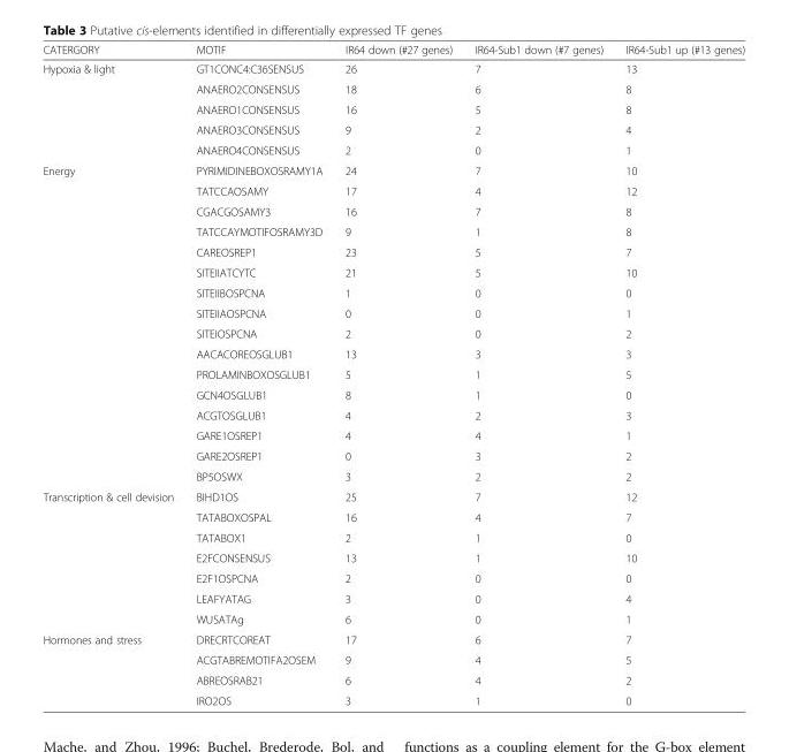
<table><thead><tr><td>CATERGORY</td><td>MOTIF</td><td>IR64 down (#27 genes)</td><td>IR64-Sub1 down (#7 genes)</td><td>IR64-Sub1 up (#13 genes)</td></tr></thead><tbody><tr><td rowspan="5">Hypoxia &amp; light</td><td>GT1CONC4:C36SENSUS</td><td>26</td><td>7</td><td>13</td></tr><tr><td>ANAERO2CONSENSUS</td><td>18</td><td>6</td><td>8</td></tr><tr><td>ANAERO1CONSENSUS</td><td>16</td><td>5</td><td>8</td></tr><tr><td>ANAERO3CONSENSUS</td><td>9</td><td>2</td><td>4</td></tr><tr><td>ANAERO4CONSENSUS</td><td>2</td><td>0</td><td>1</td></tr><tr><td rowspan="16">Energy</td><td>PYRIMIDINEBOXOSRAMY1A</td><td>24</td><td>7</td><td>10</td></tr><tr><td>TATCCAOSAMY</td><td>17</td><td>4</td><td>12</td></tr><tr><td>CGACGOSAMY3</td><td>16</td><td>7</td><td>8</td></tr><tr><td>TATCCAYMOTIFOSRAMY3D</td><td>9</td><td>1</td><td>8</td></tr><tr><td>CAREOSREP1</td><td>23</td><td>5</td><td>7</td></tr><tr><td>SITEIIATCYTC</td><td>21</td><td>5</td><td>10</td></tr><tr><td>SITEIIBOSPCNA</td><td>1</td><td>0</td><td>0</td></tr><tr><td>SITEIIAOSPCNA</td><td>0</td><td>0</td><td>1</td></tr><tr><td>SITEIOSPCNA</td><td>2</td><td>0</td><td>2</td></tr><tr><td>AACACOREOSGLUB1</td><td>13</td><td>3</td><td>3</td></tr><tr><td>PROLAMINBOXOSGLUB1</td><td>5</td><td>1</td><td>5</td></tr><tr><td>GCN4OSGLUB1</td><td>8</td><td>1</td><td>0</td></tr><tr><td>ACGTOSGLUB1</td><td>4</td><td>2</td><td>3</td></tr><tr><td>GARE1OSREP1</td><td>4</td><td>4</td><td>1</td></tr><tr><td>GARE2OSREP1</td><td>0</td><td>3</td><td>2</td></tr><tr><td>BP5OSWX</td><td>3</td><td>2</td><td>2</td></tr><tr><td rowspan="7">Transcription &amp; cell devision</td><td>BIHD1OS</td><td>25</td><td>7</td><td>12</td></tr><tr><td>TATABOXOSPAL</td><td>16</td><td>4</td><td>7</td></tr><tr><td>TATABOX1</td><td>2</td><td>1</td><td>0</td></tr><tr><td>E2FCONSENSUS</td><td>13</td><td>1</td><td>10</td></tr><tr><td>E2F1OSPCNA</td><td>2</td><td>0</td><td>0</td></tr><tr><td>LEAFYATAG</td><td>3</td><td>0</td><td>4</td></tr><tr><td>WUSATAg</td><td>6</td><td>0</td><td>1</td></tr><tr><td rowspan="4">Hormones and stress</td><td>DRECRTCOREAT</td><td>17</td><td>6</td><td>7</td></tr><tr><td>ACGTABREMOTIFA2OSEM</td><td>9</td><td>4</td><td>5</td></tr><tr><td>ABREOSRAB21</td><td>6</td><td>4</td><td>2</td></tr><tr><td>IRO2OS</td><td>3</td><td>1</td><td>0</td></tr></tbody></table>